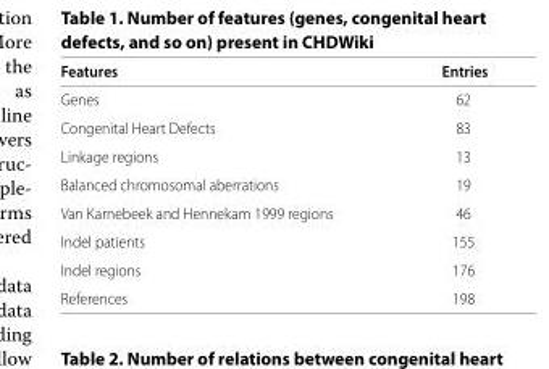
<table><thead><tr><td>Features</td><td>Entries</td></tr></thead><tbody><tr><td>Genes</td><td>62</td></tr><tr><td>Congenital Heart Defects</td><td>83</td></tr><tr><td>Linkage regions</td><td>13</td></tr><tr><td>Balanced chromosomal aberrations</td><td>19</td></tr><tr><td>Van Karnebeek and Hennekam 1999 regions</td><td>46</td></tr><tr><td>Indel patients</td><td>155</td></tr><tr><td>Indel regions</td><td>176</td></tr><tr><td>References</td><td>198</td></tr></tbody></table>